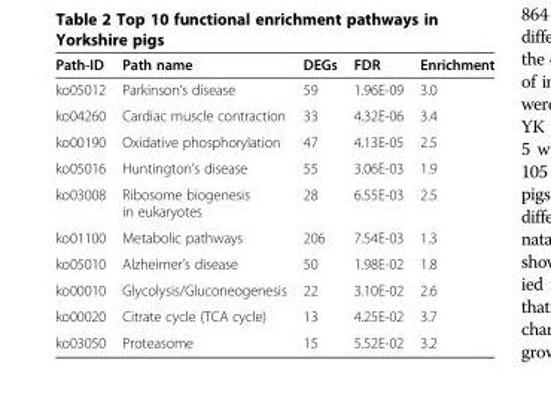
<table><thead><tr><td>Path-ID</td><td>Path name</td><td>DEGs</td><td>FDR</td><td>Enrichment</td></tr></thead><tbody><tr><td>ko05012</td><td>Parkinson’s disease</td><td>59</td><td>1.96E-09</td><td>3.0</td></tr><tr><td>ko04260</td><td>Cardiac muscle contraction</td><td>33</td><td>4.32E-06</td><td>3.4</td></tr><tr><td>ko00190</td><td>Oxidative phosphorylation</td><td>47</td><td>4.13E-05</td><td>2.5</td></tr><tr><td>ko05016</td><td>Huntington’s disease</td><td>55</td><td>3.06E-03</td><td>1.9</td></tr><tr><td>ko03008</td><td>Ribosome biogenesis in eukaryotes</td><td>28</td><td>6.55E-03</td><td>2.5</td></tr><tr><td>ko01100</td><td>Metabolic pathways</td><td>206</td><td>7.54E-03</td><td>1.3</td></tr><tr><td>ko05010</td><td>Alzheimer’s disease</td><td>50</td><td>1.98E-02</td><td>1.8</td></tr><tr><td>ko00010</td><td>Glycolysis/Gluconeogenesis</td><td>22</td><td>3.10E-02</td><td>2.6</td></tr><tr><td>ko00020</td><td>Citrate cycle (TCA cycle)</td><td>13</td><td>4.25E-02</td><td>3.7</td></tr><tr><td>ko03050</td><td>Proteasome</td><td>15</td><td>5.52E-02</td><td>3.2</td></tr></tbody></table>